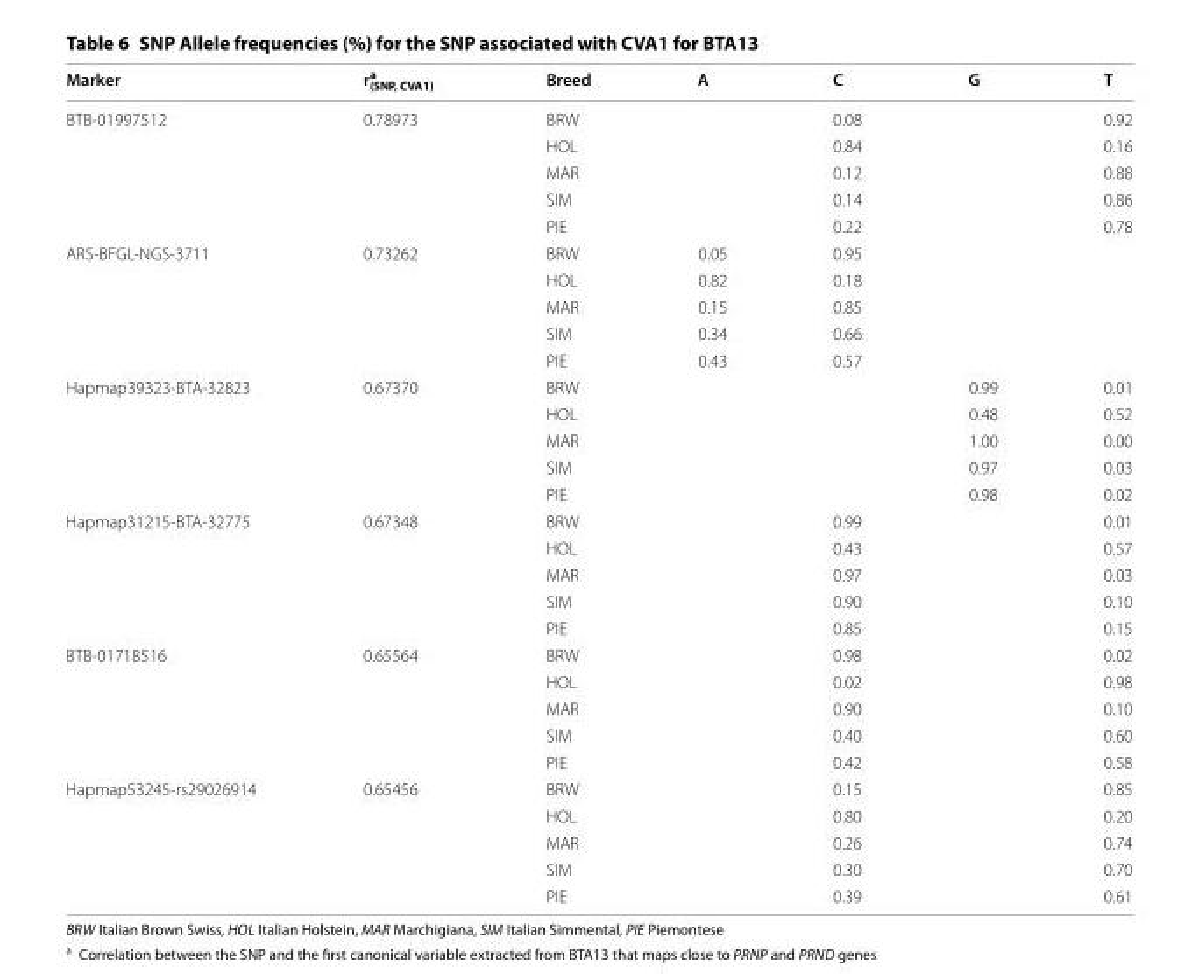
<table><thead><tr><td>Marker</td><td>ra (SNP, CVA1)</td><td>Breed</td><td>A</td><td>C</td><td>G</td><td>T</td></tr></thead><tbody><tr><td rowspan="5">BTB-01997512</td><td>0.78973</td><td>BRW</td><td></td><td>0.08</td><td></td><td>0.92</td></tr><tr><td></td><td>HOL</td><td></td><td>0.84</td><td></td><td>0.16</td></tr><tr><td></td><td>MAR</td><td></td><td>0.12</td><td></td><td>0.88</td></tr><tr><td></td><td>SIM</td><td></td><td>0.14</td><td></td><td>0.86</td></tr><tr><td></td><td>PIE</td><td></td><td>0.22</td><td></td><td>0.78</td></tr><tr><td rowspan="5">ARS-BFGL-NGS-3711</td><td>0.73262</td><td>BRW</td><td>0.05</td><td>0.95</td><td></td><td></td></tr><tr><td></td><td>HOL</td><td>0.82</td><td>0.18</td><td></td><td></td></tr><tr><td></td><td>MAR</td><td>0.15</td><td>0.85</td><td></td><td></td></tr><tr><td></td><td>SIM</td><td>0.34</td><td>0.66</td><td></td><td></td></tr><tr><td></td><td>PIE</td><td>0.43</td><td>0.57</td><td></td><td></td></tr><tr><td rowspan="5">Hapmap39323-BTA-32823</td><td>0.67370</td><td>BRW</td><td></td><td></td><td>0.99</td><td>0.01</td></tr><tr><td></td><td>HOL</td><td></td><td></td><td>0.48</td><td>0.52</td></tr><tr><td></td><td>MAR</td><td></td><td></td><td>1.00</td><td>0.00</td></tr><tr><td></td><td>SIM</td><td></td><td></td><td>0.97</td><td>0.03</td></tr><tr><td></td><td>PIE</td><td></td><td></td><td>0.98</td><td>0.02</td></tr><tr><td rowspan="5">Hapmap31215-BTA-32775</td><td>0.67348</td><td>BRW</td><td></td><td>0.99</td><td></td><td>0.01</td></tr><tr><td></td><td>HOL</td><td></td><td>0.43</td><td></td><td>0.57</td></tr><tr><td></td><td>MAR</td><td></td><td>0.97</td><td></td><td>0.03</td></tr><tr><td></td><td>SIM</td><td></td><td>0.90</td><td></td><td>0.10</td></tr><tr><td></td><td>PIE</td><td></td><td>0.85</td><td></td><td>0.15</td></tr><tr><td rowspan="5">BTB-01718516</td><td>0.65564</td><td>BRW</td><td></td><td>0.98</td><td></td><td>0.02</td></tr><tr><td></td><td>HOL</td><td></td><td>0.02</td><td></td><td>0.98</td></tr><tr><td></td><td>MAR</td><td></td><td>0.90</td><td></td><td>0.10</td></tr><tr><td></td><td>SIM</td><td></td><td>0.40</td><td></td><td>0.60</td></tr><tr><td></td><td>PIE</td><td></td><td>0.42</td><td></td><td>0.58</td></tr><tr><td rowspan="5">Hapmap53245-rs29026914</td><td>0.65456</td><td>BRW</td><td></td><td>0.15</td><td></td><td>0.85</td></tr><tr><td></td><td>HOL</td><td></td><td>0.80</td><td></td><td>0.20</td></tr><tr><td></td><td>MAR</td><td></td><td>0.26</td><td></td><td>0.74</td></tr><tr><td></td><td>SIM</td><td></td><td>0.30</td><td></td><td>0.70</td></tr><tr><td></td><td>PIE</td><td></td><td>0.39</td><td></td><td>0.61</td></tr></tbody></table>